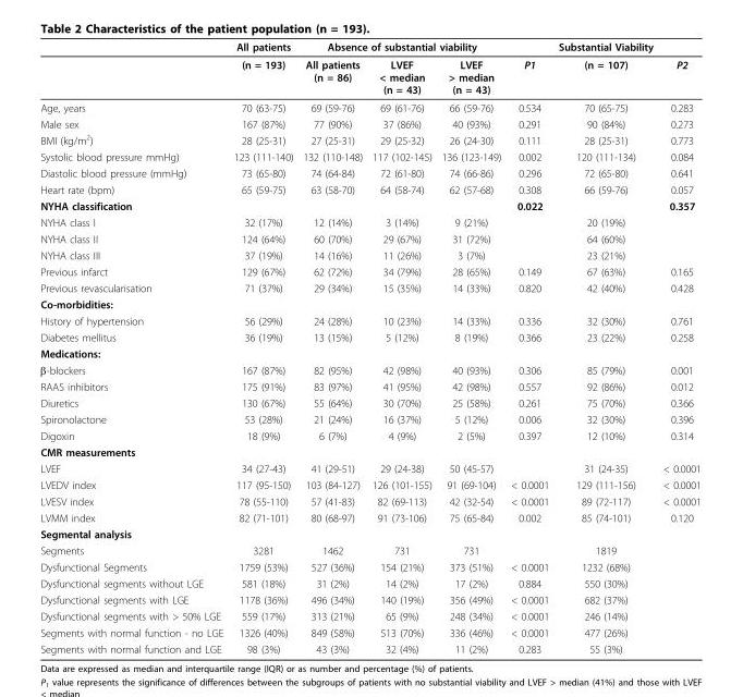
<table><thead><tr><td rowspan="2"></td><td rowspan="2">All patients (n = 193)</td><td colspan="3">Absence of substantial viability</td><td rowspan="2">P1</td><td rowspan="2">Substantial Viability (n = 107)</td><td rowspan="2">P2</td></tr><tr><td>All patients (n = 86)</td><td>LVEF &lt; median (n = 43)</td><td>LVEF &gt; median (n = 43)</td></tr></thead><tbody><tr><td>Age, years</td><td>70 (63-75)</td><td>69 (59-76)</td><td>69 (61-76)</td><td>66 (59-76)</td><td>0.534</td><td>70 (65-75)</td><td>0.283</td></tr><tr><td>Male sex</td><td>167 (87%)</td><td>77 (90%)</td><td>37 (86%)</td><td>40 (93%)</td><td>0.291</td><td>90 (84%)</td><td>0.273</td></tr><tr><td>BMI (kg/m<sup>2</sup>)</td><td>28 (25-31)</td><td>27 (25-31)</td><td>29 (25-32)</td><td>26 (24-30)</td><td>0.111</td><td>28 (25-31)</td><td>0.773</td></tr><tr><td>Systolic blood pressure mmHg)</td><td>123 (111-140)</td><td>132 (110-148)</td><td>117 (102-145)</td><td>136 (123-149)</td><td>0.002</td><td>120 (111-134)</td><td>0.084</td></tr><tr><td>Diastolic blood pressure (mmHg)</td><td>73 (65-80)</td><td>74 (64-84)</td><td>72 (61-80)</td><td>74 (66-86)</td><td>0.296</td><td>72 (65-80)</td><td>0.641</td></tr><tr><td>Heart rate (bpm)</td><td>65 (59-75)</td><td>63 (58-70)</td><td>64 (58-74)</td><td>62 (57-68)</td><td>0.308</td><td>66 (59-76)</td><td>0.057</td></tr><tr><td>NYHA classification</td><td></td><td></td><td></td><td></td><td>0.022</td><td></td><td>0.357</td></tr><tr><td>NYHA class I</td><td>32 (17%)</td><td>12 (14%)</td><td>3 (14%)</td><td>9 (21%)</td><td></td><td>20 (19%)</td><td></td></tr><tr><td>NYHA class II</td><td>124 (64%)</td><td>60 (70%)</td><td>29 (67%)</td><td>31 (72%)</td><td></td><td>64 (60%)</td><td></td></tr><tr><td>NYHA class III</td><td>37 (19%)</td><td>14 (16%)</td><td>11 (26%)</td><td>3 (7%)</td><td></td><td>23 (21%)</td><td></td></tr><tr><td>Previous infarct</td><td>129 (67%)</td><td>62 (72%)</td><td>34 (79%)</td><td>28 (65%)</td><td>0.149</td><td>67 (63%)</td><td>0.165</td></tr><tr><td>Previous revascularisation</td><td>71 (37%)</td><td>29 (34%)</td><td>15 (35%)</td><td>14 (33%)</td><td>0.820</td><td>42 (40%)</td><td>0.428</td></tr><tr><td colspan="8">Co-morbidities:</td></tr><tr><td>History of hypertension</td><td>56 (29%)</td><td>24 (28%)</td><td>10 (23%)</td><td>14 (33%)</td><td>0.336</td><td>32 (30%)</td><td>0.761</td></tr><tr><td>Diabetes mellitus</td><td>36 (19%)</td><td>13 (15%)</td><td>5 (12%)</td><td>8 (19%)</td><td>0.366</td><td>23 (22%)</td><td>0.258</td></tr><tr><td colspan="8">Medications:</td></tr><tr><td>β-blockers</td><td>167 (87%)</td><td>82 (95%)</td><td>42 (98%)</td><td>40 (93%)</td><td>0.306</td><td>85 (79%)</td><td>0.001</td></tr><tr><td>RAAS inhibitors</td><td>175 (91%)</td><td>83 (97%)</td><td>41 (95%)</td><td>42 (98%)</td><td>0.557</td><td>92 (86%)</td><td>0.012</td></tr><tr><td>Diuretics</td><td>130 (67%)</td><td>55 (64%)</td><td>30 (70%)</td><td>25 (58%)</td><td>0.261</td><td>75 (70%)</td><td>0.366</td></tr><tr><td>Spironolactone</td><td>53 (28%)</td><td>21 (24%)</td><td>16 (37%)</td><td>5 (12%)</td><td>0.006</td><td>32 (30%)</td><td>0.396</td></tr><tr><td>Digoxin</td><td>18 (9%)</td><td>6 (7%)</td><td>4 (9%)</td><td>2 (5%)</td><td>0.397</td><td>12 (10%)</td><td>0.314</td></tr><tr><td colspan="8">CMR measurements</td></tr><tr><td>LVEF</td><td>34 (27-43)</td><td>41 (29-51)</td><td>29 (24-38)</td><td>50 (45-57)</td><td></td><td>31 (24-35)</td><td>&lt; 0.0001</td></tr><tr><td>LVEDV index</td><td>117 (95-150)</td><td>103 (84-127)</td><td>126 (101-155)</td><td>91 (69-104)</td><td>&lt; 0.0001</td><td>129 (111-156)</td><td>&lt; 0.0001</td></tr><tr><td>LVESV index</td><td>78 (55-110)</td><td>57 (41-83)</td><td>82 (69-113)</td><td>42 (32-54)</td><td>&lt; 0.0001</td><td>89 (72-117)</td><td>&lt; 0.0001</td></tr><tr><td>LVMM index</td><td>82 (71-101)</td><td>80 (68-97)</td><td>91 (73-106)</td><td>75 (65-84)</td><td>0.002</td><td>85 (74-101)</td><td>0.120</td></tr><tr><td colspan="8">Segmental analysis</td></tr><tr><td>Segments</td><td>3281</td><td>1462</td><td>731</td><td>731</td><td></td><td>1819</td><td></td></tr><tr><td>Dysfunctional Segments</td><td>1759 (53%)</td><td>527 (36%)</td><td>154 (21%)</td><td>373 (51%)</td><td>&lt; 0.0001</td><td>1232 (68%)</td><td></td></tr><tr><td>Dysfunctional segments without LGE</td><td>581 (18%)</td><td>31 (2%)</td><td>14 (2%)</td><td>17 (2%)</td><td>0.884</td><td>550 (30%)</td><td></td></tr><tr><td>Dysfunctional segments with LGE</td><td>1178 (36%)</td><td>496 (34%)</td><td>140 (19%)</td><td>356 (49%)</td><td>&lt; 0.0001</td><td>682 (37%)</td><td></td></tr><tr><td>Dysfunctional segments with &gt; 50% LGE</td><td>559 (17%)</td><td>313 (21%)</td><td>65 (9%)</td><td>248 (34%)</td><td>&lt; 0.0001</td><td>246 (14%)</td><td></td></tr><tr><td>Segments with normal function - no LGE</td><td>1326 (40%)</td><td>849 (58%)</td><td>513 (70%)</td><td>336 (46%)</td><td>&lt; 0.0001</td><td>477 (26%)</td><td></td></tr><tr><td>Segments with normal function and LGE</td><td>98 (3%)</td><td>43 (3%)</td><td>32 (4%)</td><td>11 (2%)</td><td>0.283</td><td>55 (3%)</td><td></td></tr></tbody></table>